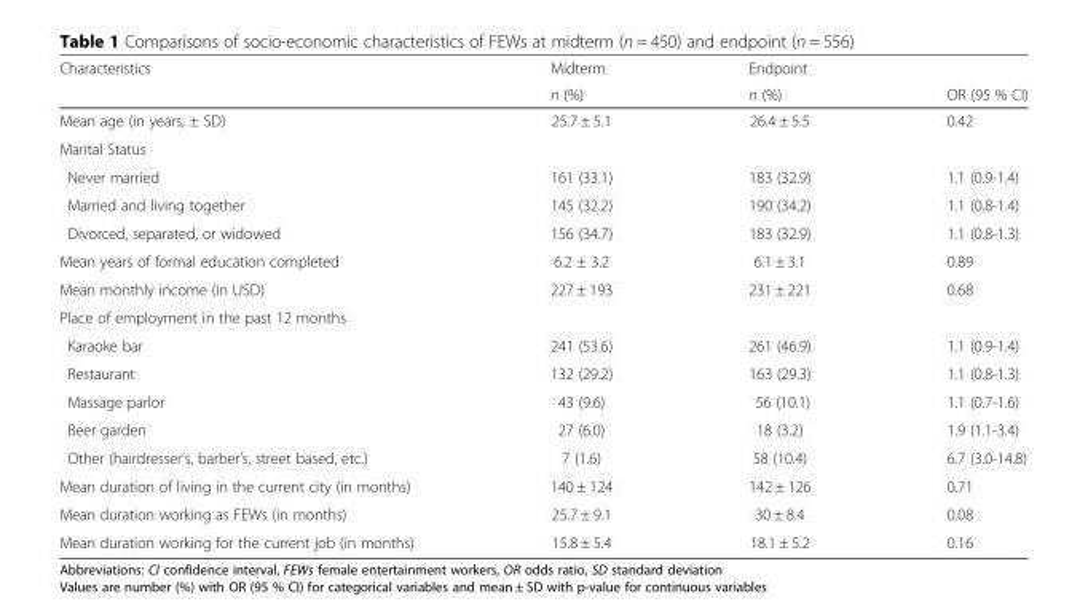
<table><thead><tr><td rowspan="2">Characteristics</td><td rowspan="2">Midterm n (%)</td><td rowspan="2">Endpoint n (%)</td><td rowspan="2">OR (95 % CI)</td></tr><tr></tr></thead><tbody><tr><td>Mean age (in years, ± SD)</td><td>25.7 ± 5.1</td><td>26.4 ± 5.5</td><td>0.42</td></tr><tr><td colspan="4">Marital Status</td></tr><tr><td>Never married</td><td>161 (33.1)</td><td>183 (32.9)</td><td>1.1 (0.9-1.4)</td></tr><tr><td>Married and living together</td><td>145 (32.2)</td><td>190 (34.2)</td><td>1.1 (0.8-1.4)</td></tr><tr><td>Divorced, separated, or widowed</td><td>156 (34.7)</td><td>183 (32.9)</td><td>1.1 (0.8-1.3)</td></tr><tr><td>Mean years of formal education completed</td><td>6.2 ± 3.2</td><td>6.1 ± 3.1</td><td>0.89</td></tr><tr><td>Mean monthly income (in USD)</td><td>227 ± 193</td><td>231 ± 221</td><td>0.68</td></tr><tr><td colspan="4">Place of employment in the past 12 months</td></tr><tr><td>Karaoke bar</td><td>241 (53.6)</td><td>261 (46.9)</td><td>1.1 (0.9-1.4)</td></tr><tr><td>Restaurant</td><td>132 (29.2)</td><td>163 (29.3)</td><td>1.1 (0.8-1.3)</td></tr><tr><td>Massage parlor</td><td>43 (9.6)</td><td>56 (10.1)</td><td>1.1 (0.7-1.6)</td></tr><tr><td>Beer garden</td><td>27 (6.0)</td><td>18 (3.2)</td><td>1.9 (1.1-3.4)</td></tr><tr><td>Other (hairdresser’s, barber’s, street based, etc.)</td><td>7 (1.6)</td><td>58 (10.4)</td><td>6.7 (3.0-14.8)</td></tr><tr><td>Mean duration of living in the current city (in months)</td><td>140 ± 124</td><td>142 ± 126</td><td>0.71</td></tr><tr><td>Mean duration working as FEWs (in months)</td><td>25.7 ± 9.1</td><td>30 ± 8.4</td><td>0.08</td></tr><tr><td>Mean duration working for the current job (in months)</td><td>15.8 ± 5.4</td><td>18.1 ± 5.2</td><td>0.16</td></tr></tbody></table>